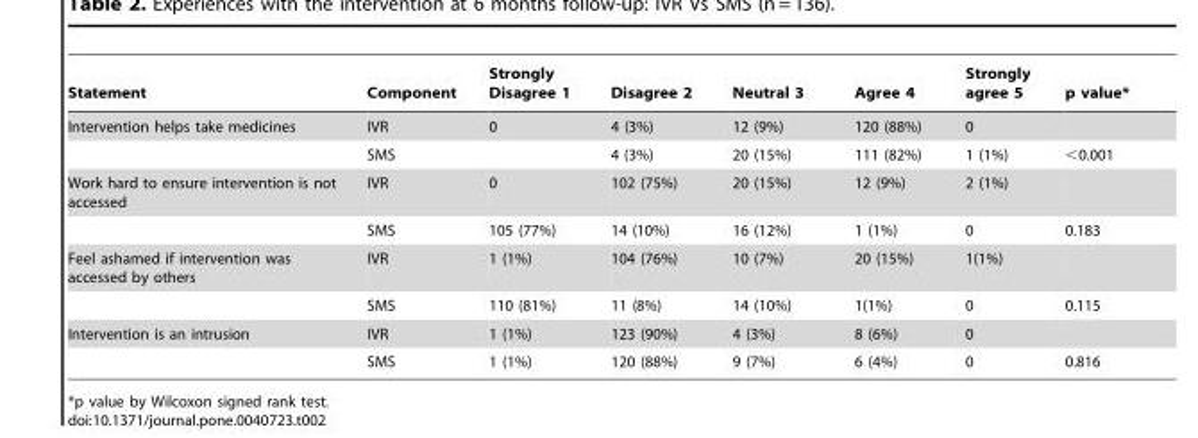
<table><thead><tr><td>Statement</td><td>Component</td><td>Strongly Disagree 1</td><td>Disagree 2</td><td>Neutral 3</td><td>Agree 4</td><td>Strongly agree 5</td><td>p value*</td></tr></thead><tbody><tr><td rowspan="2">Intervention helps take medicines</td><td>IVR</td><td>0</td><td>4 (3%)</td><td>12 (9%)</td><td>120 (88%)</td><td>0</td><td></td></tr><tr><td>SMS</td><td></td><td>4 (3%)</td><td>20 (15%)</td><td>111 (82%)</td><td>1 (1%)</td><td>&lt;0.001</td></tr><tr><td rowspan="2">Work hard to ensure intervention is not accessed</td><td>IVR</td><td>0</td><td>102 (75%)</td><td>20 (15%)</td><td>12 (9%)</td><td>2 (1%)</td><td></td></tr><tr><td>SMS</td><td>105 (77%)</td><td>14 (10%)</td><td>16 (12%)</td><td>1 (1%)</td><td>0</td><td>0.183</td></tr><tr><td rowspan="2">Feel ashamed if intervention was accessed by others</td><td>IVR</td><td>1 (1%)</td><td>104 (76%)</td><td>10 (7%)</td><td>20 (15%)</td><td>1(1%)</td><td></td></tr><tr><td>SMS</td><td>110 (81%)</td><td>11 (8%)</td><td>14 (10%)</td><td>1(1%)</td><td>0</td><td>0.115</td></tr><tr><td rowspan="2">Intervention is an intrusion</td><td>IVR</td><td>1 (1%)</td><td>123 (90%)</td><td>4 (3%)</td><td>8 (6%)</td><td>0</td><td></td></tr><tr><td>SMS</td><td>1 (1%)</td><td>120 (88%)</td><td>9 (7%)</td><td>6 (4%)</td><td>0</td><td>0.816</td></tr></tbody></table>